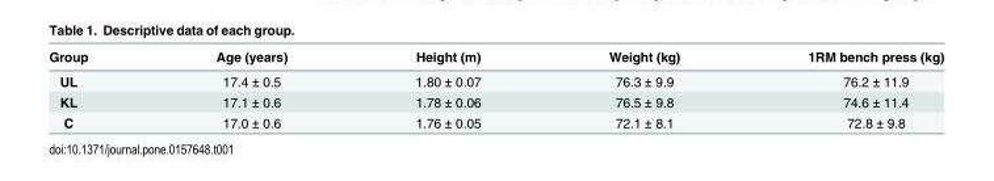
<table><thead><tr><td>Group</td><td>Age (years)</td><td>Height (m)</td><td>Weight (kg)</td><td>1RM bench press (kg)</td></tr></thead><tbody><tr><td>UL</td><td>17.4 ± 0.5</td><td>1.80 ± 0.07</td><td>76.3 ± 9.9</td><td>76.2 ± 11.9</td></tr><tr><td>KL</td><td>17.1 ± 0.6</td><td>1.78 ± 0.06</td><td>76.5 ± 9.8</td><td>74.6 ± 11.4</td></tr><tr><td>C</td><td>17.0 ± 0.6</td><td>1.76 ± 0.05</td><td>72.1 ± 8.1</td><td>72.8 ± 9.8</td></tr></tbody></table>